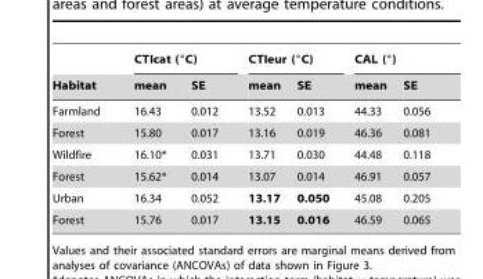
<table><thead><tr><td rowspan="2">Habitat</td><td colspan="2">CTIcat (°C)</td><td colspan="2">CTIeur (°C)</td><td colspan="2">CAL (°)</td></tr><tr><td>mean</td><td>SE</td><td>mean</td><td>SE</td><td>mean</td><td>SE</td></tr></thead><tbody><tr><td>Farmland</td><td>16.43</td><td>0.012</td><td>13.52</td><td>0.013</td><td>44.33</td><td>0.056</td></tr><tr><td>Forest</td><td>15.80</td><td>0.017</td><td>13.16</td><td>0.019</td><td>46.36</td><td>0.081</td></tr><tr><td>Wildfire</td><td>16.10*</td><td>0.031</td><td>13.71</td><td>0.030</td><td>44.48</td><td>0.118</td></tr><tr><td>Forest</td><td>15.62*</td><td>0.014</td><td>13.07</td><td>0.014</td><td>46.91</td><td>0.057</td></tr><tr><td>Urban</td><td>16.34</td><td>0.052</td><td>13.17</td><td>0.050</td><td>45.08</td><td>0.205</td></tr><tr><td>Forest</td><td>15.76</td><td>0.017</td><td>13.15</td><td>0.016</td><td>46.59</td><td>0.065</td></tr></tbody></table>